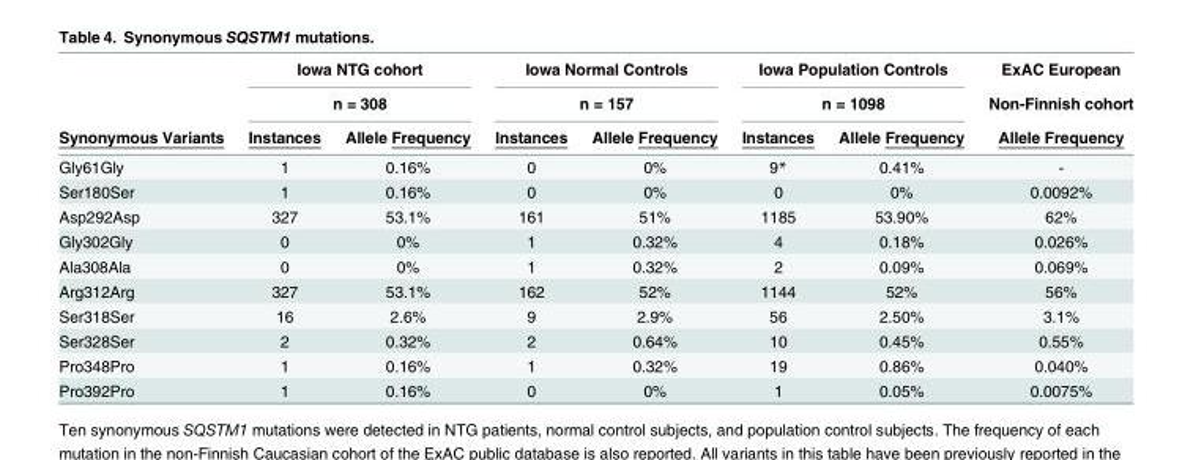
<table><thead><tr><td rowspan="3">Synonymous Variants</td><td rowspan="2" colspan="2">Iowa NTG cohort n = 308</td><td rowspan="2" colspan="2">Iowa Normal Controls n = 157</td><td rowspan="2" colspan="2">Iowa Population Controls n = 1098</td><td rowspan="3">ExAC European Non-Finnish cohort Allele Frequency</td></tr><tr></tr><tr><td>Instances</td><td>Allele Frequency</td><td>Instances</td><td>Allele Frequency</td><td>Instances</td><td>Allele Frequency</td></tr></thead><tbody><tr><td>Gly61Gly</td><td>1</td><td>0.16%</td><td>0</td><td>0%</td><td>9*</td><td>0.41%</td><td>-</td></tr><tr><td>Ser180Ser</td><td>1</td><td>0.16%</td><td>0</td><td>0%</td><td>0</td><td>0%</td><td>0.0092%</td></tr><tr><td>Asp292Asp</td><td>327</td><td>53.1%</td><td>161</td><td>51%</td><td>1185</td><td>53.90%</td><td>62%</td></tr><tr><td>Gly302Gly</td><td>0</td><td>0%</td><td>1</td><td>0.32%</td><td>4</td><td>0.18%</td><td>0.026%</td></tr><tr><td>Ala308Ala</td><td>0</td><td>0%</td><td>1</td><td>0.32%</td><td>2</td><td>0.09%</td><td>0.069%</td></tr><tr><td>Arg312Arg</td><td>327</td><td>53.1%</td><td>162</td><td>52%</td><td>1144</td><td>52%</td><td>56%</td></tr><tr><td>Ser318Ser</td><td>16</td><td>2.6%</td><td>9</td><td>2.9%</td><td>56</td><td>2.50%</td><td>3.1%</td></tr><tr><td>Ser328Ser</td><td>2</td><td>0.32%</td><td>2</td><td>0.64%</td><td>10</td><td>0.45%</td><td>0.55%</td></tr><tr><td>Pro348Pro</td><td>1</td><td>0.16%</td><td>1</td><td>0.32%</td><td>19</td><td>0.86%</td><td>0.040%</td></tr><tr><td>Pro392Pro</td><td>1</td><td>0.16%</td><td>0</td><td>0%</td><td>1</td><td>0.05%</td><td>0.0075%</td></tr></tbody></table>